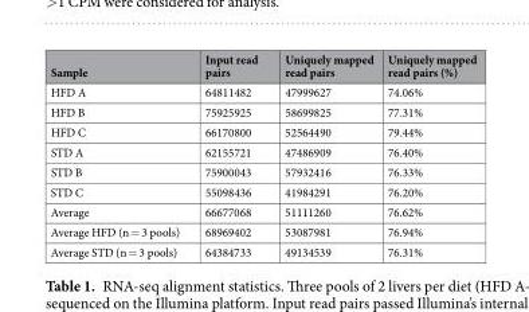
<table><thead><tr><td>Sample</td><td>Input read pairs</td><td>Uniquely mapped read pairs</td><td>Uniquely mapped read pairs (%)</td></tr></thead><tbody><tr><td>HFD A</td><td>64811482</td><td>47999627</td><td>74.06%</td></tr><tr><td>HFD B</td><td>75925925</td><td>58699825</td><td>77.31%</td></tr><tr><td>HFD C</td><td>66170800</td><td>52564490</td><td>79.44%</td></tr><tr><td>STD A</td><td>62155721</td><td>47486909</td><td>76.40%</td></tr><tr><td>STD B</td><td>75900043</td><td>57932416</td><td>76.33%</td></tr><tr><td>STD C</td><td>55098436</td><td>41984291</td><td>76.20%</td></tr><tr><td>Average</td><td>66677068</td><td>51111260</td><td>76.62%</td></tr><tr><td>Average HFD (n = 3 pools)</td><td>68969402</td><td>53087981</td><td>76.94%</td></tr><tr><td>Average STD (n = 3 pools)</td><td>64384733</td><td>49134539</td><td>76.31%</td></tr></tbody></table>